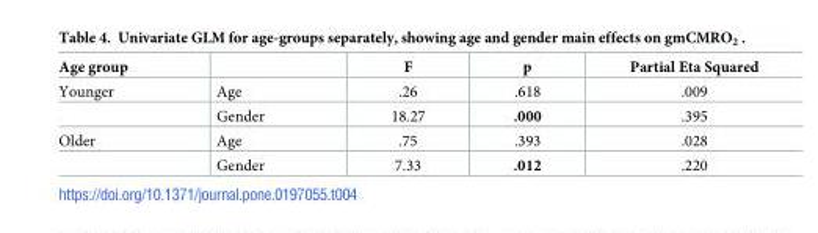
<table><thead><tr><td>Age group</td><td></td><td>F</td><td>p</td><td>Partial Eta Squared</td></tr></thead><tbody><tr><td rowspan="2">Younger</td><td>Age</td><td>.26</td><td>.618</td><td>.009</td></tr><tr><td>Gender</td><td>18.27</td><td>.000</td><td>.395</td></tr><tr><td rowspan="2">Older</td><td>Age</td><td>.75</td><td>.393</td><td>.028</td></tr><tr><td>Gender</td><td>7.33</td><td>.012</td><td>.220</td></tr></tbody></table>